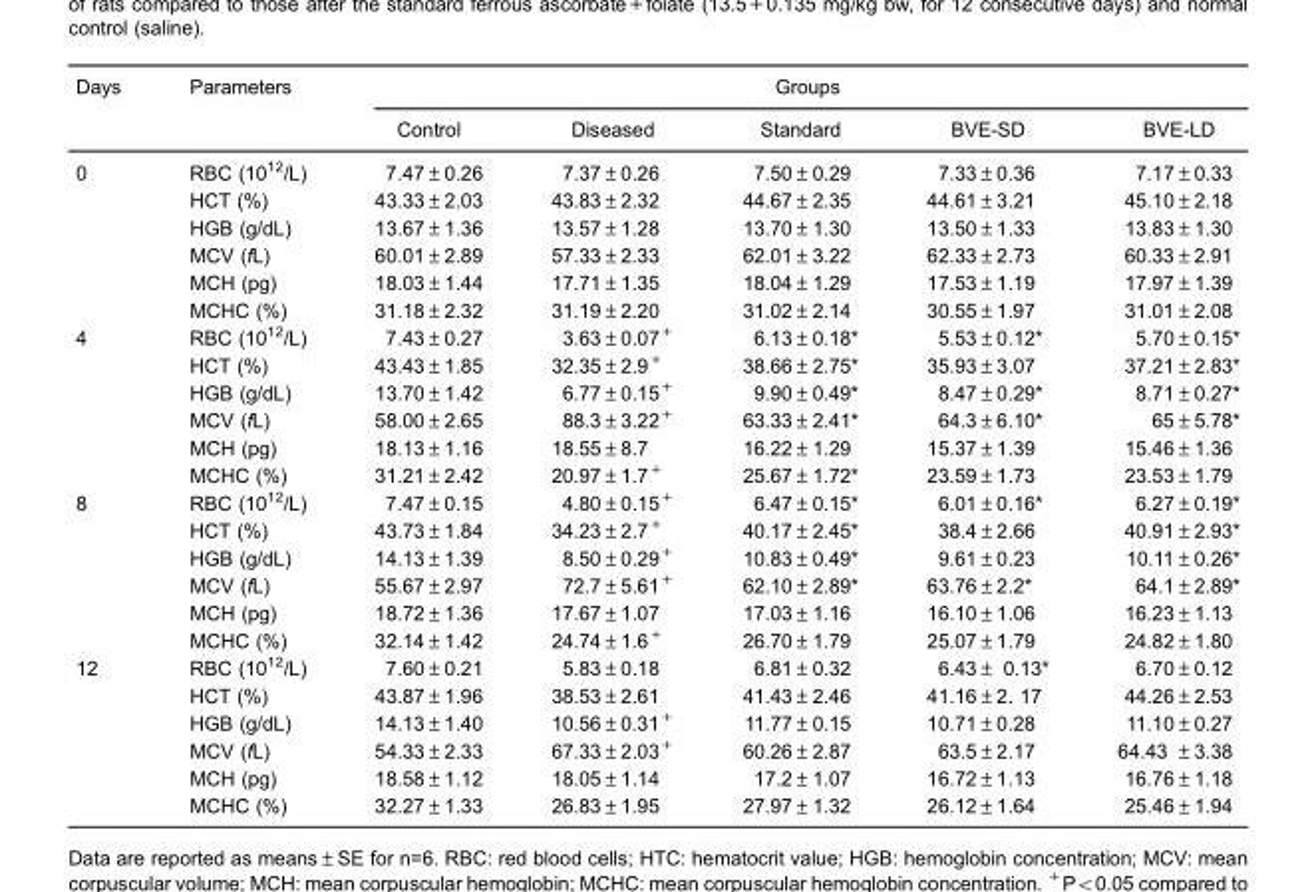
<table><thead><tr><td rowspan="2">Days</td><td rowspan="2">Parameters</td><td colspan="5">Groups</td></tr><tr><td>Control</td><td>Diseased</td><td>Standard</td><td>BVE-SD</td><td>BVE-LD</td></tr></thead><tbody><tr><td rowspan="6">0</td><td>RBC (10<sup>12</sup>/L)</td><td>7.47±0.26</td><td>7.37±0.26</td><td>7.50±0.29</td><td>7.33±0.36</td><td>7.17±0.33</td></tr><tr><td>HCT (%)</td><td>43.33±2.03</td><td>43.83±2.32</td><td>44.67±2.35</td><td>44.61±3.21</td><td>45.10±2.18</td></tr><tr><td>HGB (g/dL)</td><td>13.67±1.36</td><td>13.57±1.28</td><td>13.70±1.30</td><td>13.50±1.33</td><td>13.83±1.30</td></tr><tr><td>MCV (fL)</td><td>60.01±2.89</td><td>57.33±2.33</td><td>62.01±3.22</td><td>62.33±2.73</td><td>60.33±2.91</td></tr><tr><td>MCH (pg)</td><td>18.03±1.44</td><td>17.71±1.35</td><td>18.04±1.29</td><td>17.53±1.19</td><td>17.97±1.39</td></tr><tr><td>MCHC (%)</td><td>31.18±2.32</td><td>31.19±2.20</td><td>31.02±2.14</td><td>30.55±1.97</td><td>31.01±2.08</td></tr><tr><td rowspan="6">4</td><td>RBC (10<sup>12</sup>/L)</td><td>7.43±0.27</td><td>3.63±0.07<sup>+</sup></td><td>6.13±0.18*</td><td>5.53±0.12*</td><td>5.70±0.15*</td></tr><tr><td>HCT (%)</td><td>43.43±1.85</td><td>32.35±2.9<sup>+</sup></td><td>38.66±2.75*</td><td>35.93±3.07</td><td>37.21±2.83*</td></tr><tr><td>HGB (g/dL)</td><td>13.70±1.42</td><td>6.77±0.15<sup>+</sup></td><td>9.90±0.49*</td><td>8.47±0.29*</td><td>8.71±0.27*</td></tr><tr><td>MCV (fL)</td><td>58.00±2.65</td><td>88.3±3.22<sup>+</sup></td><td>63.33±2.41*</td><td>64.3±6.10*</td><td>65±5.78*</td></tr><tr><td>MCH (pg)</td><td>18.13±1.16</td><td>18.55±8.7</td><td>16.22±1.29</td><td>15.37±1.39</td><td>15.46±1.36</td></tr><tr><td>MCHC (%)</td><td>31.21±2.42</td><td>20.97±1.7<sup>+</sup></td><td>25.67±1.72*</td><td>23.59±1.73</td><td>23.53±1.79</td></tr><tr><td rowspan="6">8</td><td>RBC (10<sup>12</sup>/L)</td><td>7.47±0.15</td><td>4.80±0.15<sup>+</sup></td><td>6.47±0.15*</td><td>6.01±0.16*</td><td>6.27±0.19*</td></tr><tr><td>HCT (%)</td><td>43.73±1.84</td><td>34.23±2.7<sup>+</sup></td><td>40.17±2.45*</td><td>38.4±2.66</td><td>40.91±2.93*</td></tr><tr><td>HGB (g/dL)</td><td>14.13±1.39</td><td>8.50±0.29<sup>+</sup></td><td>10.83±0.49*</td><td>9.61±0.23</td><td>10.11±0.26*</td></tr><tr><td>MCV (fL)</td><td>55.67±2.97</td><td>72.7±5.61<sup>+</sup></td><td>62.10±2.89*</td><td>63.76±2.2*</td><td>64.1±2.89*</td></tr><tr><td>MCH (pg)</td><td>18.72±1.36</td><td>17.67±1.07</td><td>17.03±1.16</td><td>16.10±1.06</td><td>16.23±1.13</td></tr><tr><td>MCHC (%)</td><td>32.14±1.42</td><td>24.74±1.6<sup>+</sup></td><td>26.70±1.79</td><td>25.07±1.79</td><td>24.82±1.80</td></tr><tr><td rowspan="6">12</td><td>RBC (10<sup>12</sup>/L)</td><td>7.60±0.21</td><td>5.83±0.18</td><td>6.81±0.32</td><td>6.43± 0.13*</td><td>6.70±0.12</td></tr><tr><td>HCT (%)</td><td>43.87±1.96</td><td>38.53±2.61</td><td>41.43±2.46</td><td>41.16±2. 17</td><td>44.26±2.53</td></tr><tr><td>HGB (g/dL)</td><td>14.13±1.40</td><td>10.56±0.31<sup>+</sup></td><td>11.77±0.15</td><td>10.71±0.28</td><td>11.10±0.27</td></tr><tr><td>MCV (fL)</td><td>54.33±2.33</td><td>67.33±2.03<sup>+</sup></td><td>60.26±2.87</td><td>63.5±2.17</td><td>64.43 ±3.38</td></tr><tr><td>MCH (pg)</td><td>18.58±1.12</td><td>18.05±1.14</td><td>17.2±1.07</td><td>16.72±1.13</td><td>16.76±1.18</td></tr><tr><td>MCHC (%)</td><td>32.27±1.33</td><td>26.83±1.95</td><td>27.97±1.32</td><td>26.12±1.64</td><td>25.46±1.94</td></tr></tbody></table>